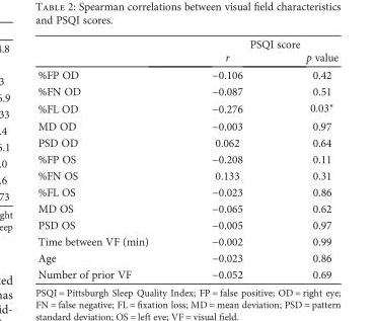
<table><thead><tr><td rowspan="2"></td><td colspan="2">PSQI score</td></tr><tr><td>r</td><td>p value</td></tr></thead><tbody><tr><td>%FP OD</td><td>−0.106</td><td>0.42</td></tr><tr><td>%FN OD</td><td>−0.087</td><td>0.51</td></tr><tr><td>%FL OD</td><td>−0.276</td><td>0.03∗</td></tr><tr><td>MD OD</td><td>−0.003</td><td>0.97</td></tr><tr><td>PSD OD</td><td>0.062</td><td>0.64</td></tr><tr><td>%FP OS</td><td>−0.208</td><td>0.11</td></tr><tr><td>%FN OS</td><td>0.133</td><td>0.31</td></tr><tr><td>%FL OS</td><td>−0.023</td><td>0.86</td></tr><tr><td>MD OS</td><td>−0.065</td><td>0.62</td></tr><tr><td>PSD OS</td><td>−0.005</td><td>0.97</td></tr><tr><td>Time between VF (min)</td><td>−0.002</td><td>0.99</td></tr><tr><td>Age</td><td>−0.023</td><td>0.86</td></tr><tr><td>Number of prior VF</td><td>−0.052</td><td>0.69</td></tr></tbody></table>